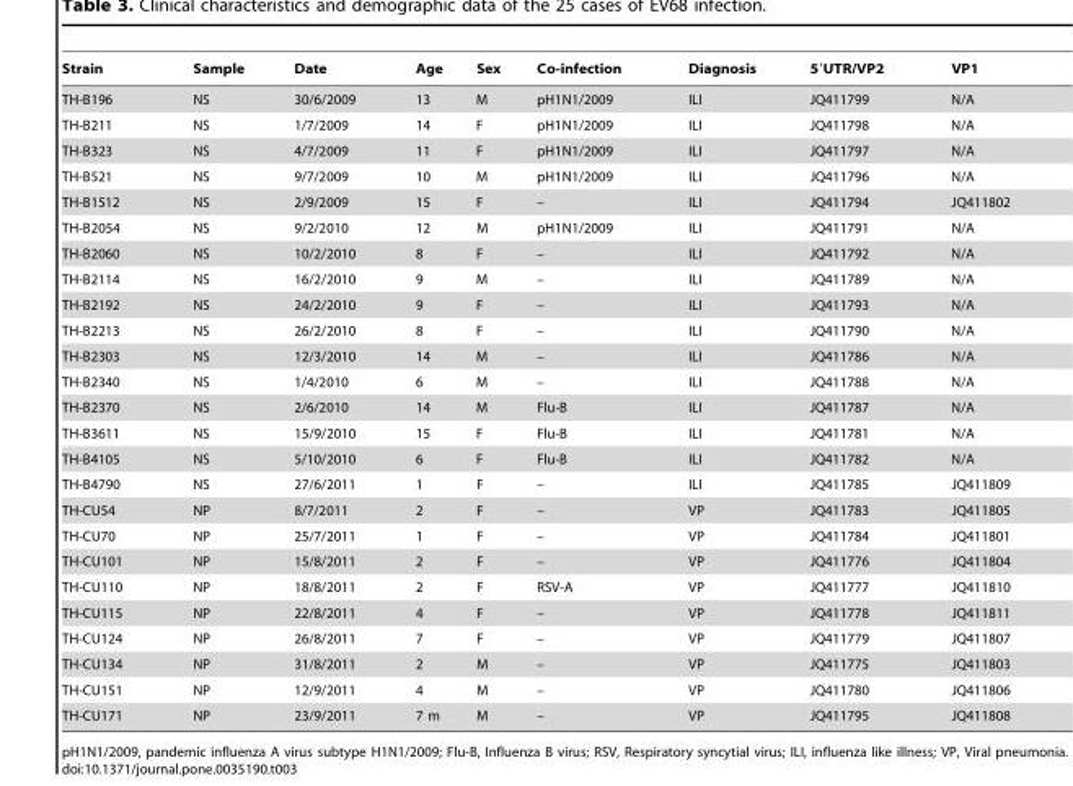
<table><thead><tr><td>Strain</td><td>Sample</td><td>Date</td><td>Age</td><td>Sex</td><td>Co-infection</td><td>Diagnosis</td><td>5′UTR/VP2</td><td>VP1</td></tr></thead><tbody><tr><td>TH-B196</td><td>NS</td><td>30/6/2009</td><td>13</td><td>M</td><td>pH1N1/2009</td><td>ILI</td><td>JQ411799</td><td>N/A</td></tr><tr><td>TH-B211</td><td>NS</td><td>1/7/2009</td><td>14</td><td>F</td><td>pH1N1/2009</td><td>ILI</td><td>JQ411798</td><td>N/A</td></tr><tr><td>TH-B323</td><td>NS</td><td>4/7/2009</td><td>11</td><td>F</td><td>pH1N1/2009</td><td>ILI</td><td>JQ411797</td><td>N/A</td></tr><tr><td>TH-B521</td><td>NS</td><td>9/7/2009</td><td>10</td><td>M</td><td>pH1N1/2009</td><td>ILI</td><td>JQ411796</td><td>N/A</td></tr><tr><td>TH-B1512</td><td>NS</td><td>2/9/2009</td><td>15</td><td>F</td><td>–</td><td>ILI</td><td>JQ411794</td><td>JQ411802</td></tr><tr><td>TH-B2054</td><td>NS</td><td>9/2/2010</td><td>12</td><td>M</td><td>pH1N1/2009</td><td>ILI</td><td>JQ411791</td><td>N/A</td></tr><tr><td>TH-B2060</td><td>NS</td><td>10/2/2010</td><td>8</td><td>F</td><td>–</td><td>ILI</td><td>JQ411792</td><td>N/A</td></tr><tr><td>TH-B2114</td><td>NS</td><td>16/2/2010</td><td>9</td><td>M</td><td>–</td><td>ILI</td><td>JQ411789</td><td>N/A</td></tr><tr><td>TH-B2192</td><td>NS</td><td>24/2/2010</td><td>9</td><td>F</td><td>–</td><td>ILI</td><td>JQ411793</td><td>N/A</td></tr><tr><td>TH-B2213</td><td>NS</td><td>26/2/2010</td><td>8</td><td>F</td><td>–</td><td>ILI</td><td>JQ411790</td><td>N/A</td></tr><tr><td>TH-B2303</td><td>NS</td><td>12/3/2010</td><td>14</td><td>M</td><td>–</td><td>ILI</td><td>JQ411786</td><td>N/A</td></tr><tr><td>TH-B2340</td><td>NS</td><td>1/4/2010</td><td>6</td><td>M</td><td>–</td><td>ILI</td><td>JQ411788</td><td>N/A</td></tr><tr><td>TH-B2370</td><td>NS</td><td>2/6/2010</td><td>14</td><td>M</td><td>Flu-B</td><td>ILI</td><td>JQ411787</td><td>N/A</td></tr><tr><td>TH-B3611</td><td>NS</td><td>15/9/2010</td><td>15</td><td>F</td><td>Flu-B</td><td>ILI</td><td>JQ411781</td><td>N/A</td></tr><tr><td>TH-B4105</td><td>NS</td><td>5/10/2010</td><td>6</td><td>F</td><td>Flu-B</td><td>ILI</td><td>JQ411782</td><td>N/A</td></tr><tr><td>TH-B4790</td><td>NS</td><td>27/6/2011</td><td>1</td><td>F</td><td>–</td><td>ILI</td><td>JQ411785</td><td>JQ411809</td></tr><tr><td>TH-CU54</td><td>NP</td><td>8/7/2011</td><td>2</td><td>F</td><td>–</td><td>VP</td><td>JQ411783</td><td>JQ411805</td></tr><tr><td>TH-CU70</td><td>NP</td><td>25/7/2011</td><td>1</td><td>F</td><td>–</td><td>VP</td><td>JQ411784</td><td>JQ411801</td></tr><tr><td>TH-CU101</td><td>NP</td><td>15/8/2011</td><td>2</td><td>F</td><td>–</td><td>VP</td><td>JQ411776</td><td>JQ411804</td></tr><tr><td>TH-CU110</td><td>NP</td><td>18/8/2011</td><td>2</td><td>F</td><td>RSV-A</td><td>VP</td><td>JQ411777</td><td>JQ411810</td></tr><tr><td>TH-CU115</td><td>NP</td><td>22/8/2011</td><td>4</td><td>F</td><td>–</td><td>VP</td><td>JQ411778</td><td>JQ411811</td></tr><tr><td>TH-CU124</td><td>NP</td><td>26/8/2011</td><td>7</td><td>F</td><td>–</td><td>VP</td><td>JQ411779</td><td>JQ411807</td></tr><tr><td>TH-CU134</td><td>NP</td><td>31/8/2011</td><td>2</td><td>M</td><td>–</td><td>VP</td><td>JQ411775</td><td>JQ411803</td></tr><tr><td>TH-CU151</td><td>NP</td><td>12/9/2011</td><td>4</td><td>M</td><td>–</td><td>VP</td><td>JQ411780</td><td>JQ411806</td></tr><tr><td>TH-CU171</td><td>NP</td><td>23/9/2011</td><td>7 m</td><td>M</td><td>–</td><td>VP</td><td>JQ411795</td><td>JQ411808</td></tr></tbody></table>